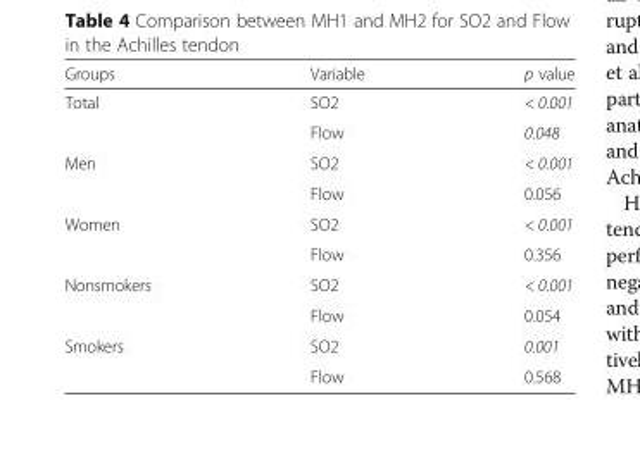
<table><thead><tr><td>Groups</td><td>Variable</td><td>p value</td></tr></thead><tbody><tr><td rowspan="2">Total</td><td>SO2</td><td>&lt; 0.001</td></tr><tr><td>Flow</td><td>0.048</td></tr><tr><td rowspan="2">Men</td><td>SO2</td><td>&lt; 0.001</td></tr><tr><td>Flow</td><td>0.056</td></tr><tr><td rowspan="2">Women</td><td>SO2</td><td>&lt; 0.001</td></tr><tr><td>Flow</td><td>0.356</td></tr><tr><td rowspan="2">Nonsmokers</td><td>SO2</td><td>&lt; 0.001</td></tr><tr><td>Flow</td><td>0.054</td></tr><tr><td rowspan="2">Smokers</td><td>SO2</td><td>0.001</td></tr><tr><td>Flow</td><td>0.568</td></tr></tbody></table>